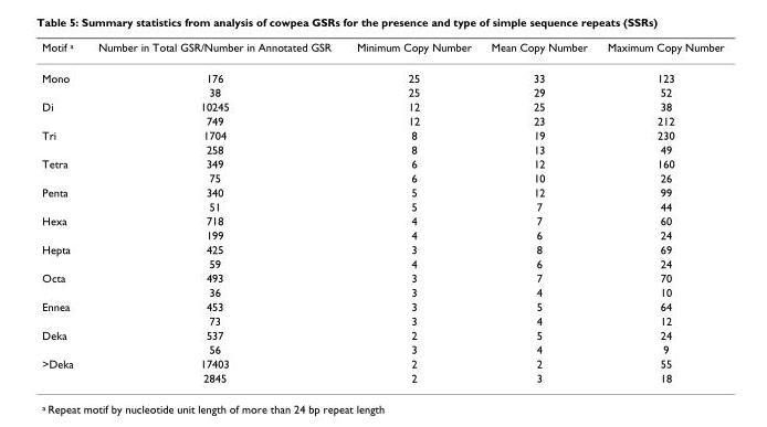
<table><thead><tr><td>Motif <sup>a</sup></td><td>Number in Total GSR/Number in Annotated GSR</td><td>Minimum Copy Number</td><td>Mean Copy Number</td><td>Maximum Copy Number</td></tr></thead><tbody><tr><td rowspan="2">Mono</td><td>176</td><td>25</td><td>33</td><td>123</td></tr><tr><td>38</td><td>25</td><td>29</td><td>52</td></tr><tr><td rowspan="2">Di</td><td>10245</td><td>12</td><td>25</td><td>38</td></tr><tr><td>749</td><td>12</td><td>23</td><td>212</td></tr><tr><td rowspan="2">Tri</td><td>1704</td><td>8</td><td>19</td><td>230</td></tr><tr><td>258</td><td>8</td><td>13</td><td>49</td></tr><tr><td rowspan="2">Tetra</td><td>349</td><td>6</td><td>12</td><td>160</td></tr><tr><td>75</td><td>6</td><td>10</td><td>26</td></tr><tr><td rowspan="2">Penta</td><td>340</td><td>5</td><td>12</td><td>99</td></tr><tr><td>51</td><td>5</td><td>7</td><td>44</td></tr><tr><td rowspan="2">Hexa</td><td>718</td><td>4</td><td>7</td><td>60</td></tr><tr><td>199</td><td>4</td><td>6</td><td>24</td></tr><tr><td rowspan="2">Hepta</td><td>425</td><td>3</td><td>8</td><td>69</td></tr><tr><td>59</td><td>4</td><td>6</td><td>24</td></tr><tr><td rowspan="2">Octa</td><td>493</td><td>3</td><td>7</td><td>70</td></tr><tr><td>36</td><td>3</td><td>4</td><td>10</td></tr><tr><td rowspan="2">Ennea</td><td>453</td><td>3</td><td>5</td><td>64</td></tr><tr><td>73</td><td>3</td><td>4</td><td>12</td></tr><tr><td rowspan="2">Deka</td><td>537</td><td>2</td><td>5</td><td>24</td></tr><tr><td>56</td><td>3</td><td>4</td><td>9</td></tr><tr><td rowspan="2">&gt;Deka</td><td>17403</td><td>2</td><td>2</td><td>55</td></tr><tr><td>2845</td><td>2</td><td>3</td><td>18</td></tr></tbody></table>